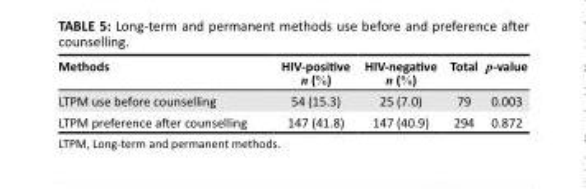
<table><thead><tr><td>Methods</td><td>HIV-positive n (%)</td><td>HIV-negative n (%)</td><td>Total</td><td>p-value</td></tr></thead><tbody><tr><td>LTPM use before counselling</td><td>54 (15.3)</td><td>25 (7.0)</td><td>79</td><td>0.003</td></tr><tr><td>LTPM preference after counselling</td><td>147 (41.8)</td><td>147 (40.9)</td><td>294</td><td>0.872</td></tr></tbody></table>